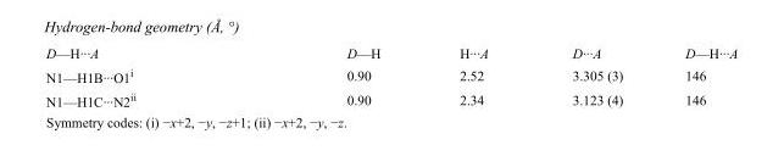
<table><tbody><tr><td>D—H···A</td><td>D—H</td><td>H···A</td><td>D···A</td><td>D—H···A</td></tr><tr><td>N1—H1B···O1<sup>i</sup></td><td>0.90</td><td>2.52</td><td>3.305 (3)</td><td>146</td></tr><tr><td>N1—H1C···N2<sup>ii</sup></td><td>0.90</td><td>2.34</td><td>3.123 (4)</td><td>146</td></tr></tbody></table>